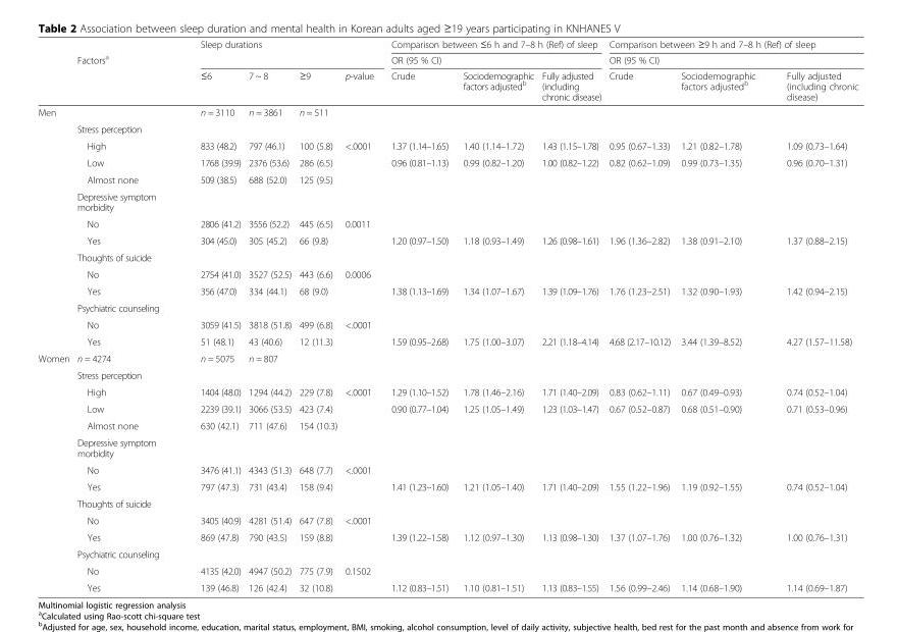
<table><thead><tr><td rowspan="3"></td><td rowspan="3">Factors<sup>a</sup></td><td rowspan="2" colspan="4">Sleep durations</td><td rowspan="2" colspan="3">Comparison between ≤6 h and 7–8 h (Ref) of sleep OR (95 % CI)</td><td rowspan="2" colspan="3">Comparison between ≥9 h and 7–8 h (Ref) of sleep OR (95 % CI)</td></tr><tr></tr><tr><td>≤6</td><td>7 ~ 8</td><td>≥9</td><td>p-value</td><td>Crude</td><td>Sociodemographic factors adjusted<sup>b</sup></td><td>Fully adjusted (including chronic disease)</td><td>Crude</td><td>Sociodemographic factors adjusted<sup>b</sup></td><td>Fully adjusted (including chronic disease)</td></tr></thead><tbody><tr><td rowspan="14">Men</td><td></td><td>n = 3110</td><td>n = 3861</td><td>n = 511</td><td></td><td></td><td></td><td></td><td></td><td></td><td></td></tr><tr><td>Stress perception</td><td></td><td></td><td></td><td></td><td></td><td></td><td></td><td></td><td></td><td></td></tr><tr><td>High</td><td>833 (48.2)</td><td>797 (46.1)</td><td>100 (5.8)</td><td>&lt;.0001</td><td>1.37 (1.14–1.65)</td><td>1.40 (1.14–1.72)</td><td>1.43 (1.15–1.78)</td><td>0.95 (0.67–1.33)</td><td>1.21 (0.82–1.78)</td><td>1.09 (0.73–1.64)</td></tr><tr><td>Low</td><td>1768 (39.9)</td><td>2376 (53.6)</td><td>286 (6.5)</td><td></td><td>0.96 (0.81–1.13)</td><td>0.99 (0.82–1.20)</td><td>1.00 (0.82–1.22)</td><td>0.82 (0.62–1.09)</td><td>0.99 (0.73–1.35)</td><td>0.96 (0.70–1.31)</td></tr><tr><td>Almost none</td><td>509 (38.5)</td><td>688 (52.0)</td><td>125 (9.5)</td><td></td><td></td><td></td><td></td><td></td><td></td><td></td></tr><tr><td>Depressive symptom morbidity</td><td></td><td></td><td></td><td></td><td></td><td></td><td></td><td></td><td></td><td></td></tr><tr><td>No</td><td>2806 (41.2)</td><td>3556 (52.2)</td><td>445 (6.5)</td><td>0.0011</td><td></td><td></td><td></td><td></td><td></td><td></td></tr><tr><td>Yes</td><td>304 (45.0)</td><td>305 (45.2)</td><td>66 (9.8)</td><td></td><td>1.20 (0.97–1.50)</td><td>1.18 (0.93–1.49)</td><td>1.26 (0.98–1.61)</td><td>1.96 (1.36–2.82)</td><td>1.38 (0.91–2.10)</td><td>1.37 (0.88–2.15)</td></tr><tr><td>Thoughts of suicide</td><td></td><td></td><td></td><td></td><td></td><td></td><td></td><td></td><td></td><td></td></tr><tr><td>No</td><td>2754 (41.0)</td><td>3527 (52.5)</td><td>443 (6.6)</td><td>0.0006</td><td></td><td></td><td></td><td></td><td></td><td></td></tr><tr><td>Yes</td><td>356 (47.0)</td><td>334 (44.1)</td><td>68 (9.0)</td><td></td><td>1.38 (1.13–1.69)</td><td>1.34 (1.07–1.67)</td><td>1.39 (1.09–1.76)</td><td>1.76 (1.23–2.51)</td><td>1.32 (0.90–1.93)</td><td>1.42 (0.94–2.15)</td></tr><tr><td>Psychiatric counseling</td><td></td><td></td><td></td><td></td><td></td><td></td><td></td><td></td><td></td><td></td></tr><tr><td>No</td><td>3059 (41.5)</td><td>3818 (51.8)</td><td>499 (6.8)</td><td>&lt;.0001</td><td></td><td></td><td></td><td></td><td></td><td></td></tr><tr><td>Yes</td><td>51 (48.1)</td><td>43 (40.6)</td><td>12 (11.3)</td><td></td><td>1.59 (0.95–2.68)</td><td>1.75 (1.00–3.07)</td><td>2.21 (1.18–4.14)</td><td>4.68 (2.17–10.12)</td><td>3.44 (1.39–8.52)</td><td>4.27 (1.57–11.58)</td></tr><tr><td rowspan="14">Women</td><td>n = 4274</td><td>n = 5075</td><td>n = 807</td><td></td><td></td><td></td><td></td><td></td><td></td><td></td><td></td></tr><tr><td>Stress perception</td><td></td><td></td><td></td><td></td><td></td><td></td><td></td><td></td><td></td><td></td></tr><tr><td>High</td><td>1404 (48.0)</td><td>1294 (44.2)</td><td>229 (7.8)</td><td>&lt;.0001</td><td>1.29 (1.10–1.52)</td><td>1.78 (1.46–2.16)</td><td>1.71 (1.40–2.09)</td><td>0.83 (0.62–1.11)</td><td>0.67 (0.49–0.93)</td><td>0.74 (0.52–1.04)</td></tr><tr><td>Low</td><td>2239 (39.1)</td><td>3066 (53.5)</td><td>423 (7.4)</td><td></td><td>0.90 (0.77–1.04)</td><td>1.25 (1.05–1.49)</td><td>1.23 (1.03–1.47)</td><td>0.67 (0.52–0.87)</td><td>0.68 (0.51–0.90)</td><td>0.71 (0.53–0.96)</td></tr><tr><td>Almost none</td><td>630 (42.1)</td><td>711 (47.6)</td><td>154 (10.3)</td><td></td><td></td><td></td><td></td><td></td><td></td><td></td></tr><tr><td>Depressive symptom morbidity</td><td></td><td></td><td></td><td></td><td></td><td></td><td></td><td></td><td></td><td></td></tr><tr><td>No</td><td>3476 (41.1)</td><td>4343 (51.3)</td><td>648 (7.7)</td><td>&lt;.0001</td><td></td><td></td><td></td><td></td><td></td><td></td></tr><tr><td>Yes</td><td>797 (47.3)</td><td>731 (43.4)</td><td>158 (9.4)</td><td></td><td>1.41 (1.23–1.60)</td><td>1.21 (1.05–1.40)</td><td>1.71 (1.40–2.09)</td><td>1.55 (1.22–1.96)</td><td>1.19 (0.92–1.55)</td><td>0.74 (0.52–1.04)</td></tr><tr><td>Thoughts of suicide</td><td></td><td></td><td></td><td></td><td></td><td></td><td></td><td></td><td></td><td></td></tr><tr><td>No</td><td>3405 (40.9)</td><td>4281 (51.4)</td><td>647 (7.8)</td><td>&lt;.0001</td><td></td><td></td><td></td><td></td><td></td><td></td></tr><tr><td>Yes</td><td>869 (47.8)</td><td>790 (43.5)</td><td>159 (8.8)</td><td></td><td>1.39 (1.22–1.58)</td><td>1.12 (0.97–1.30)</td><td>1.13 (0.98–1.30)</td><td>1.37 (1.07–1.76)</td><td>1.00 (0.76–1.32)</td><td>1.00 (0.76–1.31)</td></tr><tr><td>Psychiatric counseling</td><td></td><td></td><td></td><td></td><td></td><td></td><td></td><td></td><td></td><td></td></tr><tr><td>No</td><td>4135 (42.0)</td><td>4947 (50.2)</td><td>775 (7.9)</td><td>0.1502</td><td></td><td></td><td></td><td></td><td></td><td></td></tr><tr><td>Yes</td><td>139 (46.8)</td><td>126 (42.4)</td><td>32 (10.8)</td><td></td><td>1.12 (0.83–1.51)</td><td>1.10 (0.81–1.51)</td><td>1.13 (0.83–1.55)</td><td>1.56 (0.99–2.46)</td><td>1.14 (0.68–1.90)</td><td>1.14 (0.69–1.87)</td></tr></tbody></table>